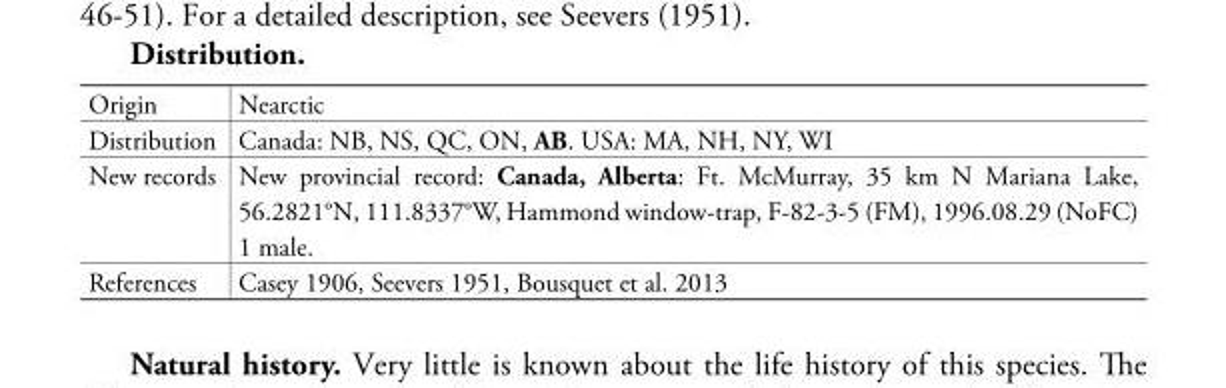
<table><tbody><tr><td>Origin</td><td>Nearctic</td></tr><tr><td>Distribution</td><td>Canada: NB, NS, QC, ON, AB. USA: MA, NH, NY, WI</td></tr><tr><td>New records</td><td>New provincial record: Canada, Alberta: Ft. McMurray, 35 km N Mariana Lake, 56.2821°N, 111.8337°W, Hammond window-trap, F-82-3-5 (FM), 1996.08.29 (NoFC) 1 male.</td></tr><tr><td>References</td><td>Casey 1906, Seevers 1951, Bousquet et al. 2013</td></tr></tbody></table>